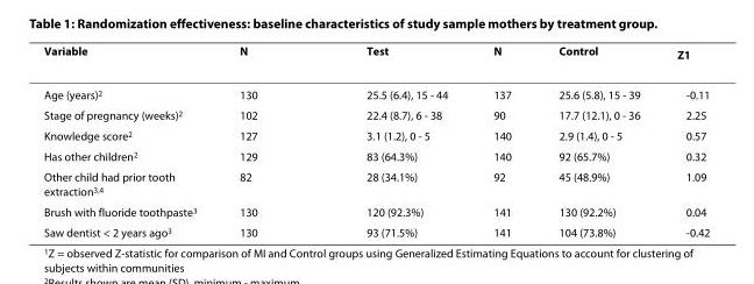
<table><thead><tr><td>Variable</td><td>N</td><td>Test</td><td>N</td><td>Control</td><td>Z<sup>1</sup></td></tr></thead><tbody><tr><td>Age (years)<sup>2</sup></td><td>130</td><td>25.5 (6.4), 15 - 44</td><td>137</td><td>25.6 (5.8), 15 - 39</td><td>-0.11</td></tr><tr><td>Stage of pregnancy (weeks)<sup>2</sup></td><td>102</td><td>22.4 (8.7), 6 - 38</td><td>90</td><td>17.7 (12.1), 0 - 36</td><td>2.25</td></tr><tr><td>Knowledge score<sup>2</sup></td><td>127</td><td>3.1 (1.2), 0 - 5</td><td>140</td><td>2.9 (1.4), 0 - 5</td><td>0.57</td></tr><tr><td>Has other children<sup>2</sup></td><td>129</td><td>83 (64.3%)</td><td>140</td><td>92 (65.7%)</td><td>0.32</td></tr><tr><td>Other child had prior tooth extraction<sup>3,4</sup></td><td>82</td><td>28 (34.1%)</td><td>92</td><td>45 (48.9%)</td><td>1.09</td></tr><tr><td>Brush with fluoride toothpaste<sup>3</sup></td><td>130</td><td>120 (92.3%)</td><td>141</td><td>130 (92.2%)</td><td>0.04</td></tr><tr><td>Saw dentist &lt; 2 years ago<sup>3</sup></td><td>130</td><td>93 (71.5%)</td><td>141</td><td>104 (73.8%)</td><td>-0.42</td></tr></tbody></table>